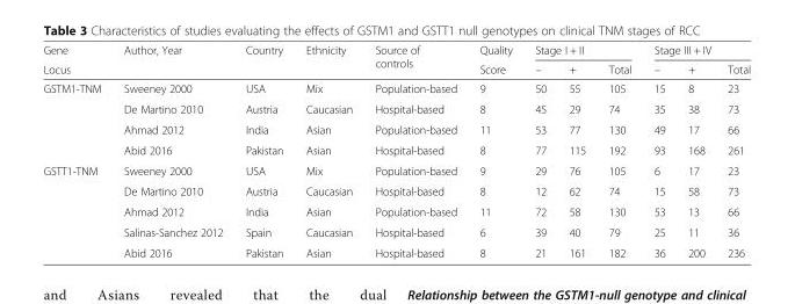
<table><thead><tr><td rowspan="2">Gene Locus</td><td rowspan="2">Author, Year</td><td rowspan="2">Country</td><td rowspan="2">Ethnicity</td><td rowspan="2">Source of controls</td><td rowspan="2">Quality Score</td><td colspan="3">Stage I + II</td><td colspan="3">Stage III + IV</td></tr><tr><td>–</td><td>+</td><td>Total</td><td>–</td><td>+</td><td>Total</td></tr></thead><tbody><tr><td rowspan="4">GSTM1-TNM</td><td>Sweeney 2000</td><td>USA</td><td>Mix</td><td>Population-based</td><td>9</td><td>50</td><td>55</td><td>105</td><td>15</td><td>8</td><td>23</td></tr><tr><td>De Martino 2010</td><td>Austria</td><td>Caucasian</td><td>Hospital-based</td><td>8</td><td>45</td><td>29</td><td>74</td><td>35</td><td>38</td><td>73</td></tr><tr><td>Ahmad 2012</td><td>India</td><td>Asian</td><td>Population-based</td><td>11</td><td>53</td><td>77</td><td>130</td><td>49</td><td>17</td><td>66</td></tr><tr><td>Abid 2016</td><td>Pakistan</td><td>Asian</td><td>Hospital-based</td><td>8</td><td>77</td><td>115</td><td>192</td><td>93</td><td>168</td><td>261</td></tr><tr><td rowspan="5">GSTT1-TNM</td><td>Sweeney 2000</td><td>USA</td><td>Mix</td><td>Population-based</td><td>9</td><td>29</td><td>76</td><td>105</td><td>6</td><td>17</td><td>23</td></tr><tr><td>De Martino 2010</td><td>Austria</td><td>Caucasian</td><td>Hospital-based</td><td>8</td><td>12</td><td>62</td><td>74</td><td>15</td><td>58</td><td>73</td></tr><tr><td>Ahmad 2012</td><td>India</td><td>Asian</td><td>Population-based</td><td>11</td><td>72</td><td>58</td><td>130</td><td>53</td><td>13</td><td>66</td></tr><tr><td>Salinas-Sanchez 2012</td><td>Spain</td><td>Caucasian</td><td>Hospital-based</td><td>6</td><td>39</td><td>40</td><td>79</td><td>25</td><td>11</td><td>36</td></tr><tr><td>Abid 2016</td><td>Pakistan</td><td>Asian</td><td>Hospital-based</td><td>8</td><td>21</td><td>161</td><td>182</td><td>36</td><td>200</td><td>236</td></tr></tbody></table>